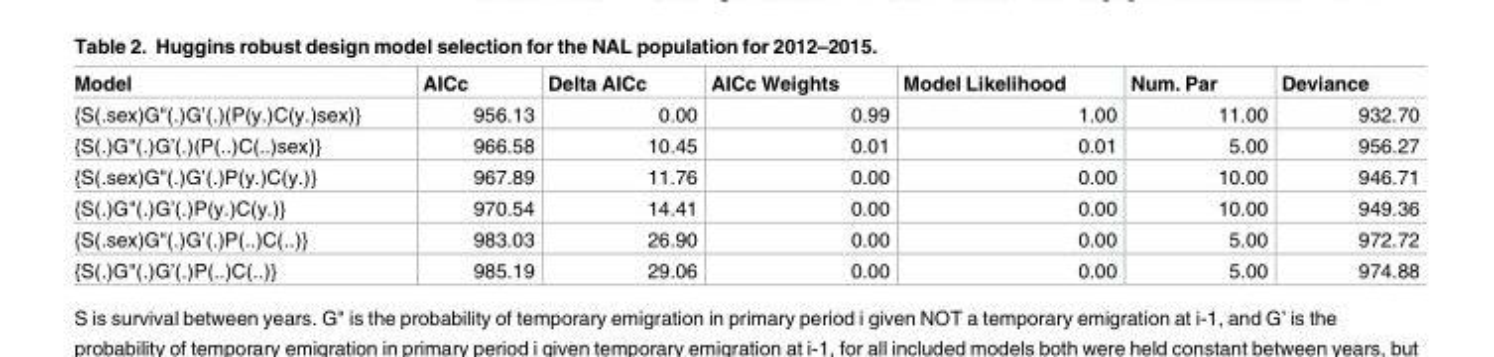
<table><thead><tr><td>Model</td><td>AICc</td><td>Delta AICc</td><td>AICc Weights</td><td>Model Likelihood</td><td>Num. Par</td><td>Deviance</td></tr></thead><tbody><tr><td>{S(.sex)G&quot;(.)G’(.)(P(y.)C(y.)sex)}</td><td>956.13</td><td>0.00</td><td>0.99</td><td>1.00</td><td>11.00</td><td>932.70</td></tr><tr><td>{S(.)G&quot;(.)G’(.)(P(..)C(..)sex)}</td><td>966.58</td><td>10.45</td><td>0.01</td><td>0.01</td><td>5.00</td><td>956.27</td></tr><tr><td>{S(.sex)G&quot;(.)G’(.)P(y.)C(y.)}</td><td>967.89</td><td>11.76</td><td>0.00</td><td>0.00</td><td>10.00</td><td>946.71</td></tr><tr><td>{S(.)G&quot;(.)G’(.)P(y.)C(y.)}</td><td>970.54</td><td>14.41</td><td>0.00</td><td>0.00</td><td>10.00</td><td>949.36</td></tr><tr><td>{S(.sex)G&quot;(.)G’(.)P(..)C(..)}</td><td>983.03</td><td>26.90</td><td>0.00</td><td>0.00</td><td>5.00</td><td>972.72</td></tr><tr><td>{S(.)G&quot;(.)G’(.)P(..)C(..)}</td><td>985.19</td><td>29.06</td><td>0.00</td><td>0.00</td><td>5.00</td><td>974.88</td></tr></tbody></table>